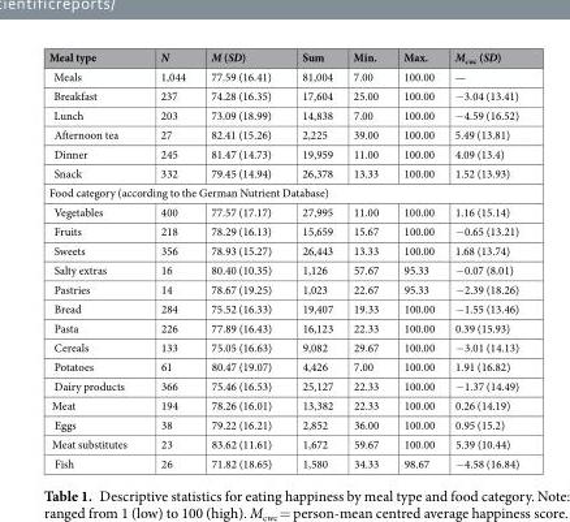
<table><thead><tr><td>Meal type</td><td>N</td><td>M (SD)</td><td>Sum</td><td>Min.</td><td>Max.</td><td>M<sub>cwc</sub> (SD)</td></tr></thead><tbody><tr><td>Meals</td><td>1,044</td><td>77.59 (16.41)</td><td>81,004</td><td>7.00</td><td>100.00</td><td>—</td></tr><tr><td>Breakfast</td><td>237</td><td>74.28 (16.35)</td><td>17,604</td><td>25.00</td><td>100.00</td><td>−3.04 (13.41)</td></tr><tr><td>Lunch</td><td>203</td><td>73.09 (18.99)</td><td>14,838</td><td>7.00</td><td>100.00</td><td>−4.59 (16.52)</td></tr><tr><td>Afternoon tea</td><td>27</td><td>82.41 (15.26)</td><td>2,225</td><td>39.00</td><td>100.00</td><td>5.49 (13.81)</td></tr><tr><td>Dinner</td><td>245</td><td>81.47 (14.73)</td><td>19,959</td><td>11.00</td><td>100.00</td><td>4.09 (13.4)</td></tr><tr><td>Snack</td><td>332</td><td>79.45 (14.94)</td><td>26,378</td><td>13.33</td><td>100.00</td><td>1.52 (13.93)</td></tr><tr><td colspan="7">Food category (according to the German Nutrient Database)</td></tr><tr><td>Vegetables</td><td>400</td><td>77.57 (17.17)</td><td>27,995</td><td>11.00</td><td>100.00</td><td>1.16 (15.14)</td></tr><tr><td>Fruits</td><td>218</td><td>78.29 (16.13)</td><td>15,659</td><td>15.67</td><td>100.00</td><td>−0.65 (13.21)</td></tr><tr><td>Sweets</td><td>356</td><td>78.93 (15.27)</td><td>26,443</td><td>13.33</td><td>100.00</td><td>1.68 (13.74)</td></tr><tr><td>Salty extras</td><td>16</td><td>80.40 (10.35)</td><td>1,126</td><td>57.67</td><td>95.33</td><td>−0.07 (8.01)</td></tr><tr><td>Pastries</td><td>14</td><td>78.67 (19.25)</td><td>1,023</td><td>22.67</td><td>95.33</td><td>−2.39 (18.26)</td></tr><tr><td>Bread</td><td>284</td><td>75.52 (16.33)</td><td>19,407</td><td>19.33</td><td>100.00</td><td>−1.55 (13.46)</td></tr><tr><td>Pasta</td><td>226</td><td>77.89 (16.43)</td><td>16,123</td><td>22.33</td><td>100.00</td><td>0.39 (15.93)</td></tr><tr><td>Cereals</td><td>133</td><td>75.05 (16.63)</td><td>9,082</td><td>29.67</td><td>100.00</td><td>−3.01 (14.13)</td></tr><tr><td>Potatoes</td><td>61</td><td>80.47 (19.07)</td><td>4,426</td><td>7.00</td><td>100.00</td><td>1.91 (16.82)</td></tr><tr><td>Dairy products</td><td>366</td><td>75.46 (16.53)</td><td>25,127</td><td>22.33</td><td>100.00</td><td>−1.37 (14.49)</td></tr><tr><td>Meat</td><td>194</td><td>78.26 (16.01)</td><td>13,382</td><td>22.33</td><td>100.00</td><td>0.26 (14.19)</td></tr><tr><td>Eggs</td><td>38</td><td>79.22 (16.21)</td><td>2,852</td><td>36.00</td><td>100.00</td><td>0.95 (15.2)</td></tr><tr><td>Meat substitutes</td><td>23</td><td>83.62 (11.61)</td><td>1,672</td><td>59.67</td><td>100.00</td><td>5.39 (10.44)</td></tr><tr><td>Fish</td><td>26</td><td>71.82 (18.65)</td><td>1,580</td><td>34.33</td><td>98.67</td><td>−4.58 (16.84)</td></tr></tbody></table>